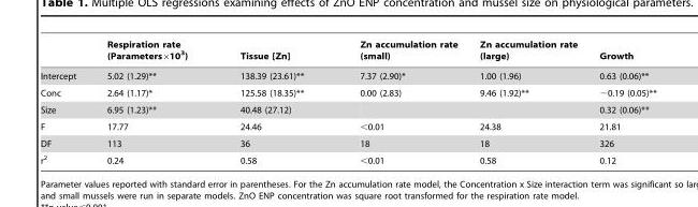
<table><thead><tr><td></td><td>Respiration rate (Parameters×10<sup>3</sup>)</td><td>Tissue [Zn]</td><td>Zn accumulation rate (small)</td><td>Zn accumulation rate (large)</td><td>Growth</td></tr></thead><tbody><tr><td>Intercept</td><td>5.02 (1.29)**</td><td>138.39 (23.61)**</td><td>7.37 (2.90)*</td><td>1.00 (1.96)</td><td>0.63 (0.06)**</td></tr><tr><td>Conc</td><td>2.64 (1.17)*</td><td>125.58 (18.35)**</td><td>0.00 (2.83)</td><td>9.46 (1.92)**</td><td>−0.19 (0.05)**</td></tr><tr><td>Size</td><td>6.95 (1.23)**</td><td>40.48 (27.12)</td><td></td><td></td><td>0.32 (0.06)**</td></tr><tr><td>F</td><td>17.77</td><td>24.46</td><td>&lt;0.01</td><td>24.38</td><td>21.81</td></tr><tr><td>DF</td><td>113</td><td>36</td><td>18</td><td>18</td><td>326</td></tr><tr><td>r<sup>2</sup></td><td>0.24</td><td>0.58</td><td>&lt;0.01</td><td>0.58</td><td>0.12</td></tr></tbody></table>